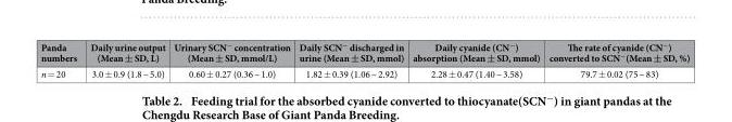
<table><thead><tr><td>Panda numbers</td><td>Daily urine output (Mean ± SD, L)</td><td>Urinary SCN<sup>−</sup> concentration (Mean ± SD, mmol/L)</td><td>Daily SCN<sup>−</sup> discharged in urine (Mean ± SD, mmol)</td><td>Daily cyanide (CN<sup>−</sup>) absorption (Mean ± SD, mmol)</td><td>The rate of cyanide (CN<sup>−</sup>) converted to SCN<sup>−</sup>(Mean ± SD, %)</td></tr></thead><tbody><tr><td>n = 20</td><td>3.0 ± 0.9 (1.8 ~ 5.0)</td><td>0.60 ± 0.27 (0.36 ~ 1.0)</td><td>1.82 ± 0.39 (1.06 ~ 2.92)</td><td>2.28 ± 0.47 (1.40 ~ 3.58)</td><td>79.7 ± 0.02 (75 ~ 83)</td></tr></tbody></table>